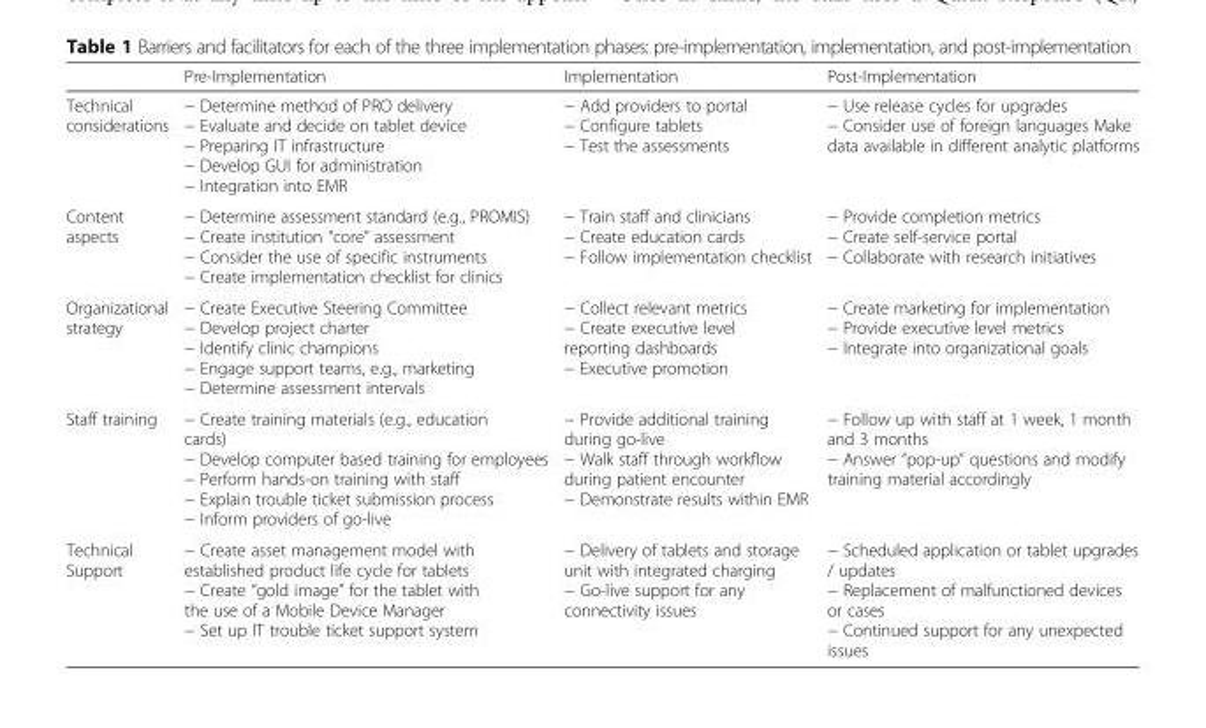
<table><thead><tr><td></td><td>Pre-Implementation</td><td>Implementation</td><td>Post-Implementation</td></tr></thead><tbody><tr><td>Technical considerations</td><td>− Determine method of PRO delivery − Evaluate and decide on tablet device − Preparing IT infrastructure − Develop GUI for administration − Integration into EMR</td><td>− Add providers to portal − Configure tablets − Test the assessments</td><td>− Use release cycles for upgrades − Consider use of foreign languages Make data available in different analytic platforms</td></tr><tr><td>Content aspects</td><td>− Determine assessment standard (e.g., PROMIS) − Create institution “core” assessment − Consider the use of specific instruments − Create implementation checklist for clinics</td><td>− Train staff and clinicians − Create education cards − Follow implementation checklist</td><td>− Provide completion metrics − Create self-service portal − Collaborate with research initiatives</td></tr><tr><td>Organizational strategy</td><td>− Create Executive Steering Committee − Develop project charter − Identify clinic champions − Engage support teams, e.g., marketing − Determine assessment intervals</td><td>− Collect relevant metrics − Create executive level reporting dashboards − Executive promotion</td><td>− Create marketing for implementation − Provide executive level metrics − Integrate into organizational goals</td></tr><tr><td>Staff training</td><td>− Create training materials (e.g., education cards) − Develop computer based training for employees − Perform hands-on training with staff − Explain trouble ticket submission process − Inform providers of go-live</td><td>− Provide additional training during go-live − Walk staff through workflow during patient encounter − Demonstrate results within EMR</td><td>− Follow up with staff at 1 week, 1 month and 3 months − Answer “pop-up” questions and modify training material accordingly</td></tr><tr><td>Technical Support</td><td>− Create asset management model with established product life cycle for tablets − Create “gold image” for the tablet with the use of a Mobile Device Manager − Set up IT trouble ticket support system</td><td>− Delivery of tablets and storage unit with integrated charging − Go-live support for any connectivity issues</td><td>− Scheduled application or tablet upgrades / updates − Replacement of malfunctioned devices or cases − Continued support for any unexpected issues</td></tr></tbody></table>